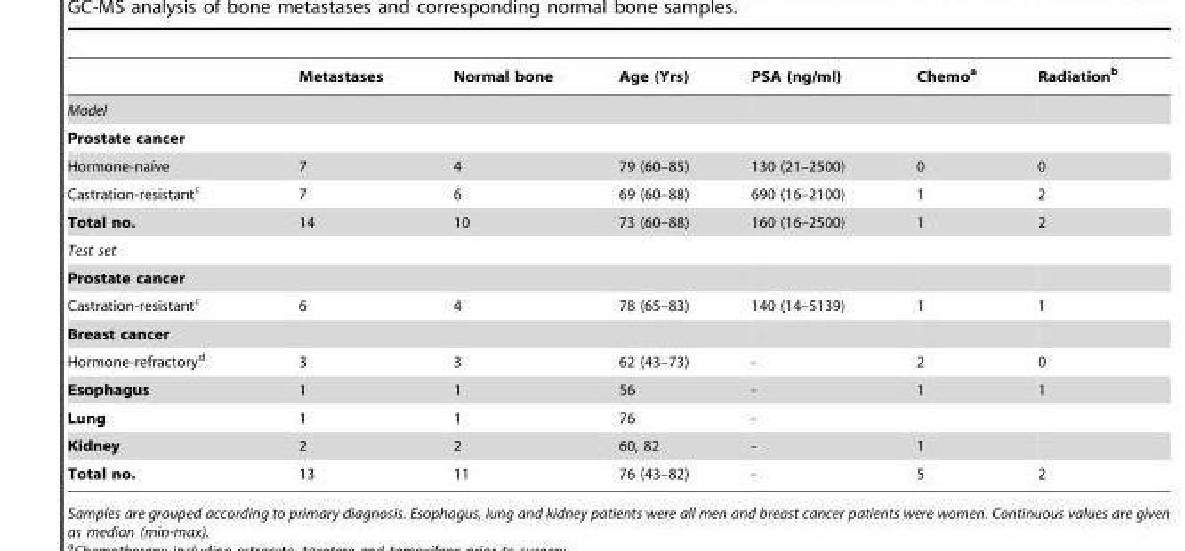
<table><thead><tr><td></td><td>Metastases</td><td>Normal bone</td><td>Age (Yrs)</td><td>PSA (ng/ml)</td><td>Chemo<sup>a</sup></td><td>Radiation<sup>b</sup></td></tr></thead><tbody><tr><td colspan="7">Model</td></tr><tr><td colspan="7">Prostate cancer</td></tr><tr><td>Hormone-naı´ve</td><td>7</td><td>4</td><td>79 (60–85)</td><td>130 (21–2500)</td><td>0</td><td>0</td></tr><tr><td>Castration-resistant<sup>c</sup></td><td>7</td><td>6</td><td>69 (60–88)</td><td>690 (16–2100)</td><td>1</td><td>2</td></tr><tr><td>Total no.</td><td>14</td><td>10</td><td>73 (60–88)</td><td>160 (16–2500)</td><td>1</td><td>2</td></tr><tr><td colspan="7">Test set</td></tr><tr><td colspan="7">Prostate cancer</td></tr><tr><td>Castration-resistant<sup>c</sup></td><td>6</td><td>4</td><td>78 (65–83)</td><td>140 (14–5139)</td><td>1</td><td>1</td></tr><tr><td colspan="7">Breast cancer</td></tr><tr><td>Hormone-refractory<sup>d</sup></td><td>3</td><td>3</td><td>62 (43–73)</td><td>-</td><td>2</td><td>0</td></tr><tr><td>Esophagus</td><td>1</td><td>1</td><td>56</td><td>-</td><td>1</td><td>1</td></tr><tr><td>Lung</td><td>1</td><td>1</td><td>76</td><td>-</td><td></td><td></td></tr><tr><td>Kidney</td><td>2</td><td>2</td><td>60, 82</td><td>-</td><td>1</td><td></td></tr><tr><td>Total no.</td><td>13</td><td>11</td><td>76 (43–82)</td><td>-</td><td>5</td><td>2</td></tr></tbody></table>